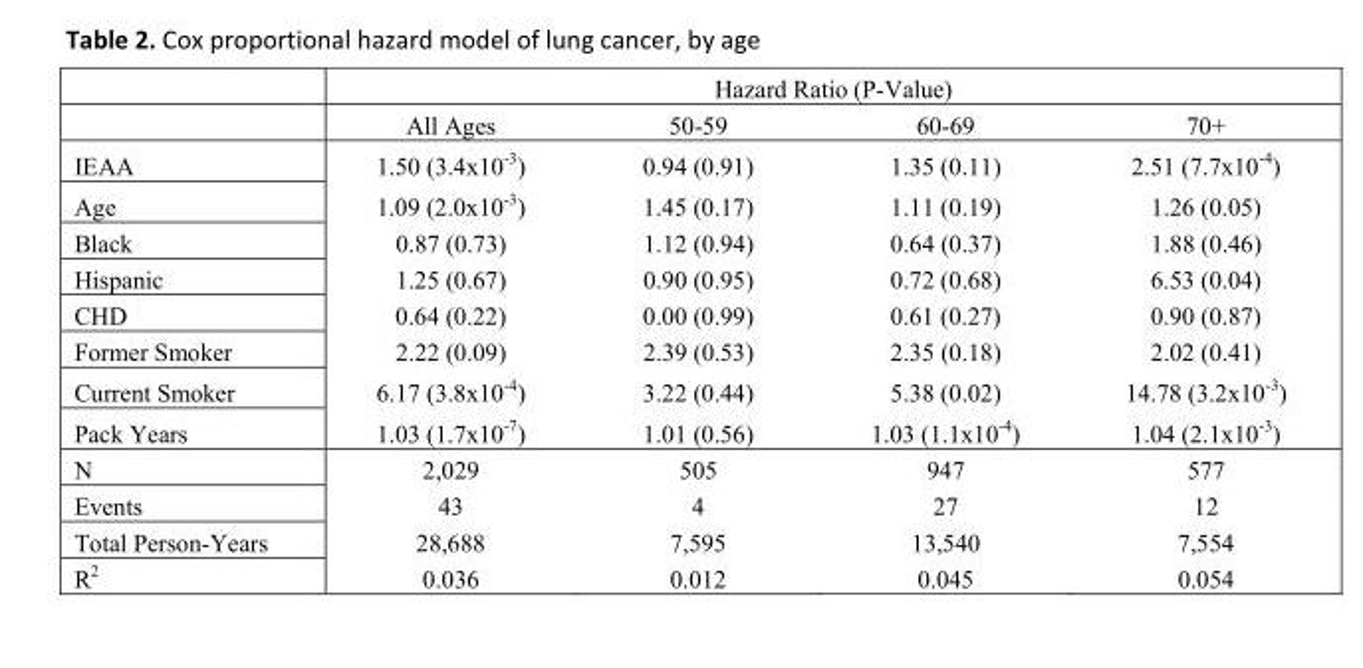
<table><thead><tr><td rowspan="2"></td><td colspan="4">Hazard Ratio (P-Value)</td></tr><tr><td>All Ages</td><td>50-59</td><td>60-69</td><td>70+</td></tr></thead><tbody><tr><td>IEAA</td><td>1.50 (3.4x10-3)</td><td>0.94 (0.91)</td><td>1.35 (0.11)</td><td>2.51 (7.7x10-4)</td></tr><tr><td>Age</td><td>1.09 (2.0x10-3)</td><td>1.45 (0.17)</td><td>1.11 (0.19)</td><td>1.26 (0.05)</td></tr><tr><td>Black</td><td>0.87 (0.73)</td><td>1.12 (0.94)</td><td>0.64 (0.37)</td><td>1.88 (0.46)</td></tr><tr><td>Hispanic</td><td>1.25 (0.67)</td><td>0.90 (0.95)</td><td>0.72 (0.68)</td><td>6.53 (0.04)</td></tr><tr><td>CHD</td><td>0.64 (0.22)</td><td>0.00 (0.99)</td><td>0.61 (0.27)</td><td>0.90 (0.87)</td></tr><tr><td>Former Smoker</td><td>2.22 (0.09)</td><td>2.39 (0.53)</td><td>2.35 (0.18)</td><td>2.02 (0.41)</td></tr><tr><td>Current Smoker</td><td>6.17 (3.8x10-4)</td><td>3.22 (0.44)</td><td>5.38 (0.02)</td><td>14.78 (3.2x10-3)</td></tr><tr><td>Pack Years</td><td>1.03 (1.7x10-7)</td><td>1.01 (0.56)</td><td>1.03 (1.1x10-4)</td><td>1.04 (2.1x10-3)</td></tr><tr><td>N</td><td>2,029</td><td>505</td><td>947</td><td>577</td></tr><tr><td>Events</td><td>43</td><td>4</td><td>27</td><td>12</td></tr><tr><td>Total Person-Years</td><td>28,688</td><td>7,595</td><td>13,540</td><td>7,554</td></tr><tr><td>R<sup>2</sup></td><td>0.036</td><td>0.012</td><td>0.045</td><td>0.054</td></tr></tbody></table>